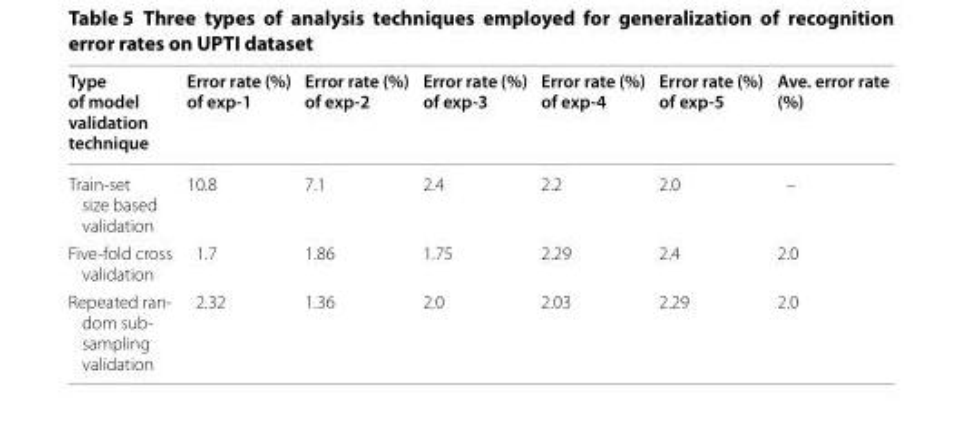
<table><thead><tr><td>Type of model validation technique</td><td>Error rate (%) of exp-1</td><td>Error rate (%) of exp-2</td><td>Error rate (%) of exp-3</td><td>Error rate (%) of exp-4</td><td>Error rate (%) of exp-5</td><td>Ave. error rate (%)</td></tr></thead><tbody><tr><td>Train-set size based validation</td><td>10.8</td><td>7.1</td><td>2.4</td><td>2.2</td><td>2.0</td><td>–</td></tr><tr><td>Five-fold cross validation</td><td>1.7</td><td>1.86</td><td>1.75</td><td>2.29</td><td>2.4</td><td>2.0</td></tr><tr><td>Repeated ran- dom sub- sampling validation</td><td>2.32</td><td>1.36</td><td>2.0</td><td>2.03</td><td>2.29</td><td>2.0</td></tr></tbody></table>